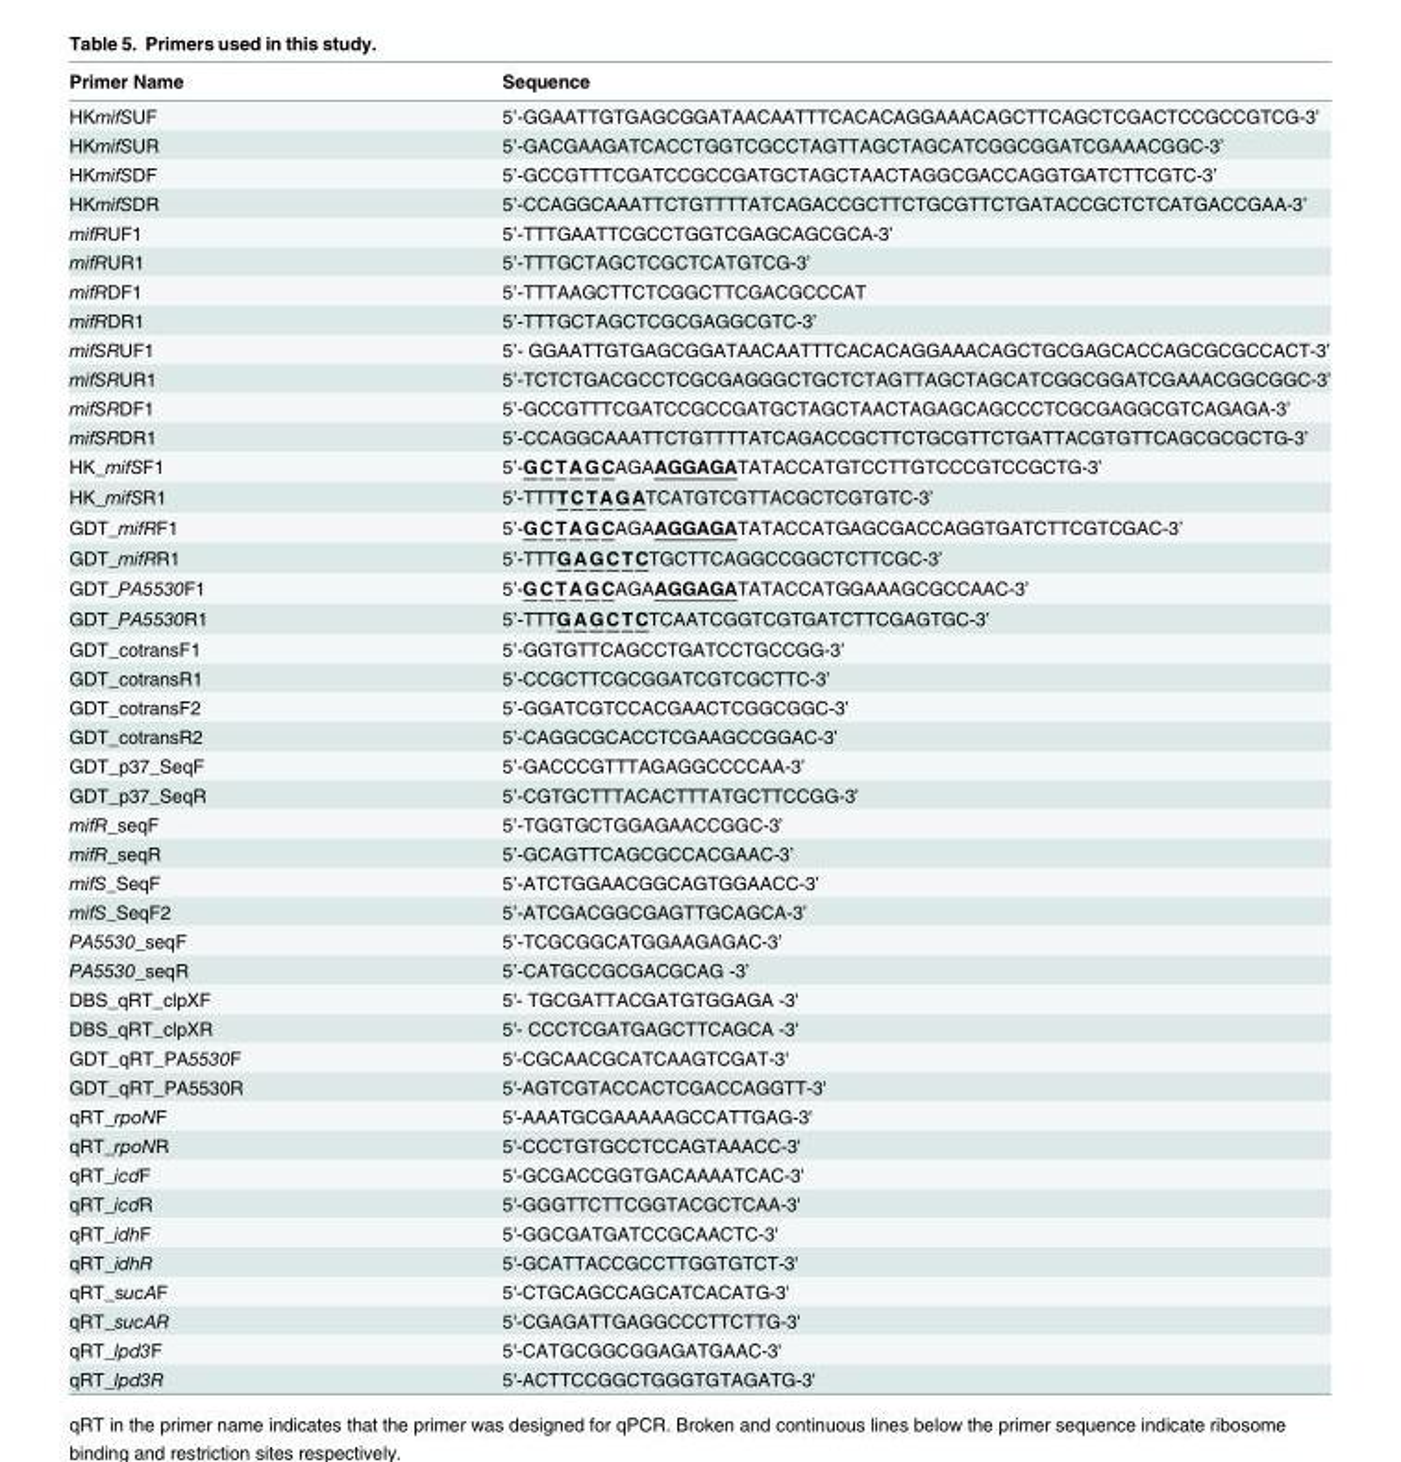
<table><thead><tr><td>Primer Name</td><td>Sequence</td></tr></thead><tbody><tr><td>HKmifSUF</td><td>5’-GGAATTGTGAGCGGATAACAATTTCACACAGGAAACAGCTTCAGCTCGACTCCGCCGTCG-3’</td></tr><tr><td>HKmifSUR</td><td>5’-GACGAAGATCACCTGGTCGCCTAGTTAGCTAGCATCGGCGGATCGAAACGGC-3’</td></tr><tr><td>HKmifSDF</td><td>5’-GCCGTTTCGATCCGCCGATGCTAGCTAACTAGGCGACCAGGTGATCTTCGTC-3’</td></tr><tr><td>HKmifSDR</td><td>5’-CCAGGCAAATTCTGTTTTATCAGACCGCTTCTGCGTTCTGATACCGCTCTCATGACCGAA-3’</td></tr><tr><td>mifRUF1</td><td>5’-TTTGAATTCGCCTGGTCGAGCAGCGCA-3’</td></tr><tr><td>mifRUR1</td><td>5’-TTTGCTAGCTCGCTCATGTCG-3’</td></tr><tr><td>mifRDF1</td><td>5’-TTTAAGCTTCTCGGCTTCGACGCCCAT</td></tr><tr><td>mifRDR1</td><td>5’-TTTGCTAGCTCGCGAGGCGTC-3’</td></tr><tr><td>mifSRUF1</td><td>5’- GGAATTGTGAGCGGATAACAATTTCACACAGGAAACAGCTGCGAGCACCAGCGCGCCACT-3’</td></tr><tr><td>mifSRUR1</td><td>5’-TCTCTGACGCCTCGCGAGGGCTGCTCTAGTTAGCTAGCATCGGCGGATCGAAACGGCGGC-3’</td></tr><tr><td>mifSRDF1</td><td>5’-GCCGTTTCGATCCGCCGATGCTAGCTAACTAGAGCAGCCCTCGCGAGGCGTCAGAGA-3’</td></tr><tr><td>mifSRDR1</td><td>5’-CCAGGCAAATTCTGTTTTATCAGACCGCTTCTGCGTTCTGATTACGTGTTCAGCGCGCTG-3’</td></tr><tr><td>HK_mifSF1</td><td>5’-GCTAGCAGAAGGAGATATACCATGTCCTTGTCCCGTCCGCTG-3’</td></tr><tr><td>HK_mifSR1</td><td>5’-TTTTCTAGATCATGTCGTTACGCTCGTGTC-3’</td></tr><tr><td>GDT_mifRF1</td><td>5’-GCTAGCAGAAGGAGATATACCATGAGCGACCAGGTGATCTTCGTCGAC-3’</td></tr><tr><td>GDT_mifRR1</td><td>5’-TTTGAGCTCTGCTTCAGGCCGGCTCTTCGC-3’</td></tr><tr><td>GDT_PA5530F1</td><td>5’-GCTAGCAGAAGGAGATATACCATGGAAAGCGCCAAC-3’</td></tr><tr><td>GDT_PA5530R1</td><td>5’-TTTGAGCTCTCAATCGGTCGTGATCTTCGAGTGC-3’</td></tr><tr><td>GDT_cotransF1</td><td>5’-GGTGTTCAGCCTGATCCTGCCGG-3’</td></tr><tr><td>GDT_cotransR1</td><td>5’-CCGCTTCGCGGATCGTCGCTTC-3’</td></tr><tr><td>GDT_cotransF2</td><td>5’-GGATCGTCCACGAACTCGGCGGC-3’</td></tr><tr><td>GDT_cotransR2</td><td>5’-CAGGCGCACCTCGAAGCCGGAC-3’</td></tr><tr><td>GDT_p37_SeqF</td><td>5’-GACCCGTTTAGAGGCCCCAA-3’</td></tr><tr><td>GDT_p37_SeqR</td><td>5’-CGTGCTTTACACTTTATGCTTCCGG-3’</td></tr><tr><td>mifR_seqF</td><td>5’-TGGTGCTGGAGAACCGGC-3’</td></tr><tr><td>mifR_seqR</td><td>5’-GCAGTTCAGCGCCACGAAC-3’</td></tr><tr><td>mifS_SeqF</td><td>5’-ATCTGGAACGGCAGTGGAACC-3’</td></tr><tr><td>mifS_SeqF2</td><td>5’-ATCGACGGCGAGTTGCAGCA-3’</td></tr><tr><td>PA5530_seqF</td><td>5’-TCGCGGCATGGAAGAGAC-3’</td></tr><tr><td>PA5530_seqR</td><td>5’-CATGCCGCGACGCAG -3’</td></tr><tr><td>DBS_qRT_clpXF</td><td>5&#x27;- TGCGATTACGATGTGGAGA -3&#x27;</td></tr><tr><td>DBS_qRT_clpXR</td><td>5&#x27;- CCCTCGATGAGCTTCAGCA -3&#x27;</td></tr><tr><td>GDT_qRT_PA5530F</td><td>5&#x27;-CGCAACGCATCAAGTCGAT-3&#x27;</td></tr><tr><td>GDT_qRT_PA5530R</td><td>5&#x27;-AGTCGTACCACTCGACCAGGTT-3&#x27;</td></tr><tr><td>qRT_rpoNF</td><td>5&#x27;-AAATGCGAAAAAGCCATTGAG-3&#x27;</td></tr><tr><td>qRT_rpoNR</td><td>5&#x27;-CCCTGTGCCTCCAGTAAACC-3&#x27;</td></tr><tr><td>qRT_icdF</td><td>5&#x27;-GCGACCGGTGACAAAATCAC-3&#x27;</td></tr><tr><td>qRT_icdR</td><td>5&#x27;-GGGTTCTTCGGTACGCTCAA-3&#x27;</td></tr><tr><td>qRT_idhF</td><td>5&#x27;-GGCGATGATCCGCAACTC-3&#x27;</td></tr><tr><td>qRT_idhR</td><td>5&#x27;-GCATTACCGCCTTGGTGTCT-3&#x27;</td></tr><tr><td>qRT_sucAF</td><td>5&#x27;-CTGCAGCCAGCATCACATG-3&#x27;</td></tr><tr><td>qRT_sucAR</td><td>5&#x27;-CGAGATTGAGGCCCTTCTTG-3&#x27;</td></tr><tr><td>qRT_lpd3F</td><td>5&#x27;-CATGCGGCGGAGATGAAC-3&#x27;</td></tr><tr><td>qRT_lpd3R</td><td>5&#x27;-ACTTCCGGCTGGGTGTAGATG-3&#x27;</td></tr></tbody></table>